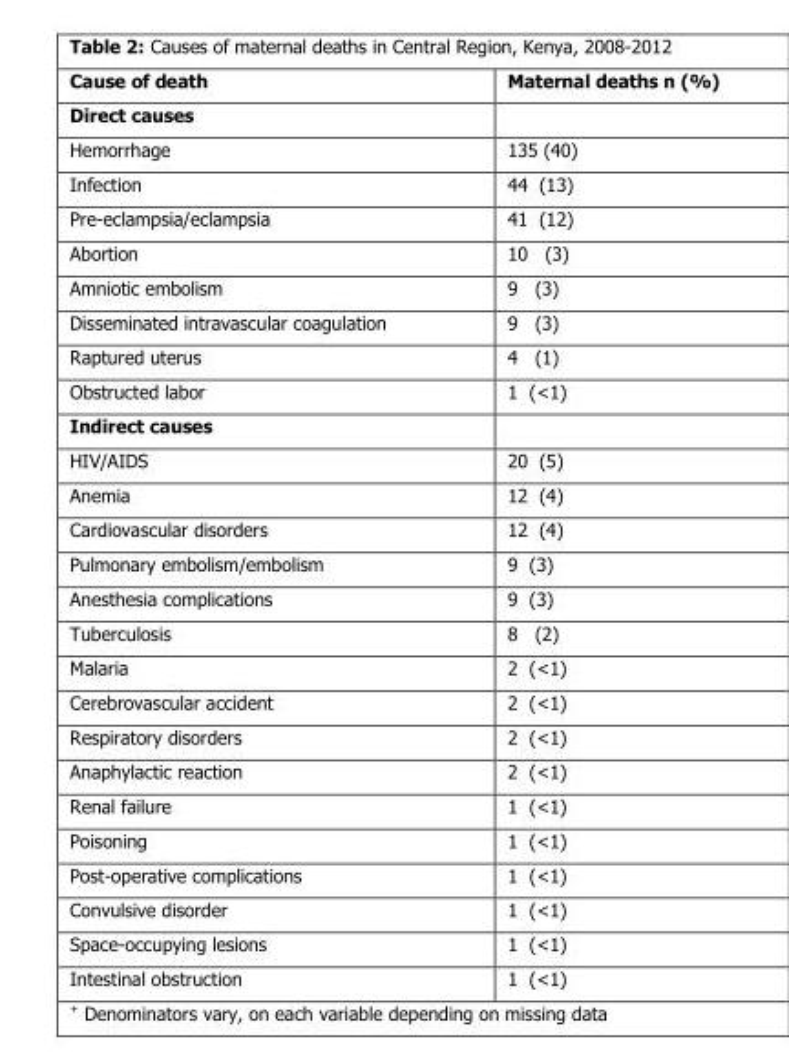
<table><thead><tr><td>Cause of death</td><td>Maternal deaths n (%)</td></tr></thead><tbody><tr><td colspan="2">Direct causes</td></tr><tr><td>Hemorrhage</td><td>135 (40)</td></tr><tr><td>Infection</td><td>44 (13)</td></tr><tr><td>Pre-eclampsia/eclampsia</td><td>41 (12)</td></tr><tr><td>Abortion</td><td>10 (3)</td></tr><tr><td>Amniotic embolism</td><td>9 (3)</td></tr><tr><td>Disseminated intravascular coagulation</td><td>9 (3)</td></tr><tr><td>Raptured uterus</td><td>4 (1)</td></tr><tr><td>Obstructed labor</td><td>1 (&lt;1)</td></tr><tr><td colspan="2">Indirect causes</td></tr><tr><td>HIV/AIDS</td><td>20 (5)</td></tr><tr><td>Anemia</td><td>12 (4)</td></tr><tr><td>Cardiovascular disorders</td><td>12 (4)</td></tr><tr><td>Pulmonary embolism/embolism</td><td>9 (3)</td></tr><tr><td>Anesthesia complications</td><td>9 (3)</td></tr><tr><td>Tuberculosis</td><td>8 (2)</td></tr><tr><td>Malaria</td><td>2 (&lt;1)</td></tr><tr><td>Cerebrovascular accident</td><td>2 (&lt;1)</td></tr><tr><td>Respiratory disorders</td><td>2 (&lt;1)</td></tr><tr><td>Anaphylactic reaction</td><td>2 (&lt;1)</td></tr><tr><td>Renal failure</td><td>1 (&lt;1)</td></tr><tr><td>Poisoning</td><td>1 (&lt;1)</td></tr><tr><td>Post-operative complications</td><td>1 (&lt;1)</td></tr><tr><td>Convulsive disorder</td><td>1 (&lt;1)</td></tr><tr><td>Space-occupying lesions</td><td>1 (&lt;1)</td></tr><tr><td>Intestinal obstruction</td><td>1 (&lt;1)</td></tr></tbody></table>